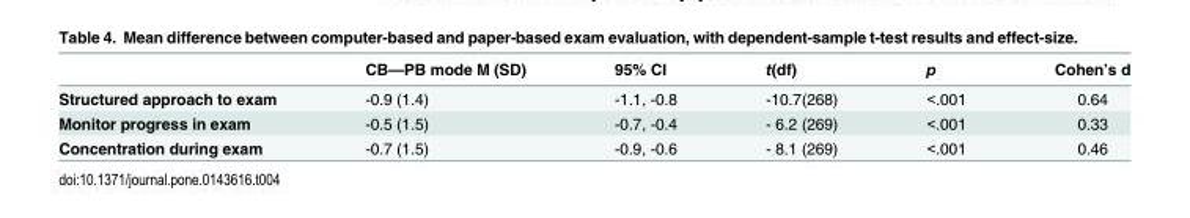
<table><thead><tr><td></td><td>CB—PB mode M (SD)</td><td>95% CI</td><td>t(df)</td><td>p</td><td>Cohen’s d</td></tr></thead><tbody><tr><td>Structured approach to exam</td><td>-0.9 (1.4)</td><td>-1.1, -0.8</td><td>-10.7(268)</td><td>&lt;.001</td><td>0.64</td></tr><tr><td>Monitor progress in exam</td><td>-0.5 (1.5)</td><td>-0.7, -0.4</td><td>- 6.2 (269)</td><td>&lt;.001</td><td>0.33</td></tr><tr><td>Concentration during exam</td><td>-0.7 (1.5)</td><td>-0.9, -0.6</td><td>- 8.1 (269)</td><td>&lt;.001</td><td>0.46</td></tr></tbody></table>